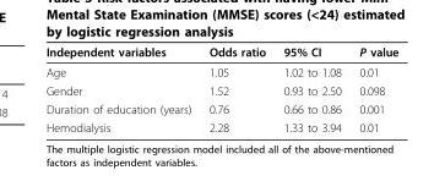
<table><thead><tr><td>Independent variables</td><td>Odds ratio</td><td>95% CI</td><td>P value</td></tr></thead><tbody><tr><td>Age</td><td>1.05</td><td>1.02 to 1.08</td><td>0.01</td></tr><tr><td>Gender</td><td>1.52</td><td>0.93 to 2.50</td><td>0.098</td></tr><tr><td>Duration of education (years)</td><td>0.76</td><td>0.66 to 0.86</td><td>0.001</td></tr><tr><td>Hemodialysis</td><td>2.28</td><td>1.33 to 3.94</td><td>0.01</td></tr></tbody></table>